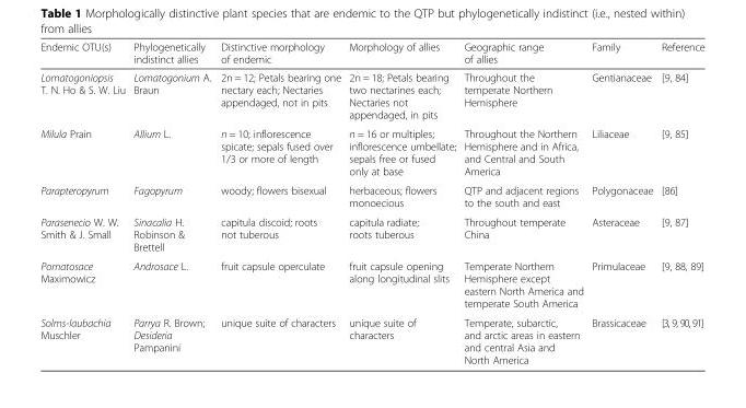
<table><thead><tr><td>Endemic OTU(s)</td><td>Phylogenetically indistinct allies</td><td>Distinctive morphology of endemic</td><td>Morphology of allies</td><td>Geographic range of allies</td><td>Family</td><td>Reference</td></tr></thead><tbody><tr><td>Lomatogoniopsis T. N. Ho &amp; S. W. Liu</td><td>Lomatogonium A. Braun</td><td>2n = 12; Petals bearing one nectary each; Nectaries appendaged, not in pits</td><td>2n = 18; Petals bearing two nectarines each; Nectaries not appendaged, in pits</td><td>Throughout the temperate Northern Hemisphere</td><td>Gentianaceae</td><td>[9, 84]</td></tr><tr><td>Milula Prain</td><td>Allium L.</td><td>n = 10; inflorescence spicate; sepals fused over 1/3 or more of length</td><td>n = 16 or multiples; inflorescence umbellate; sepals free or fused only at base</td><td>Throughout the Northern Hemisphere and in Africa, and Central and South America</td><td>Liliaceae</td><td>[9, 85]</td></tr><tr><td>Parapteropyrum</td><td>Fagopyrum</td><td>woody; flowers bisexual</td><td>herbaceous; flowers monoecious</td><td>QTP and adjacent regions to the south and east</td><td>Polygonaceae</td><td>[86]</td></tr><tr><td>Parasenecio W. W. Smith &amp; J. Small</td><td>Sinacalia H. Robinson &amp; Brettell</td><td>capitula discoid; roots not tuberous</td><td>capitula radiate; roots tuberous</td><td>Throughout temperate China</td><td>Asteraceae</td><td>[9, 87]</td></tr><tr><td>Pomatosace Maximowicz</td><td>Androsace L.</td><td>fruit capsule operculate</td><td>fruit capsule opening along longitudinal slits</td><td>Temperate Northern Hemisphere except eastern North America and temperate South America</td><td>Primulaceae</td><td>[9, 88, 89]</td></tr><tr><td>Solms-laubachia Muschler</td><td>Parrya R. Brown; Desideria Pampanini</td><td>unique suite of characters</td><td>unique suite of characters</td><td>Temperate, subarctic, and arctic areas in eastern and central Asia and North America</td><td>Brassicaceae</td><td>[3, 9, 90, 91]</td></tr></tbody></table>